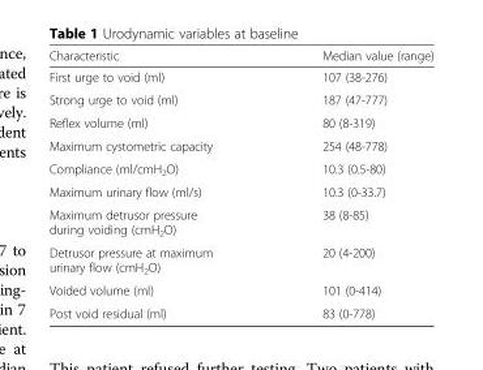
<table><thead><tr><td>Characteristic</td><td>Median value (range)</td></tr></thead><tbody><tr><td>First urge to void (ml)</td><td>107 (38-276)</td></tr><tr><td>Strong urge to void (ml)</td><td>187 (47-777)</td></tr><tr><td>Reflex volume (ml)</td><td>80 (8-319)</td></tr><tr><td>Maximum cystometric capacity</td><td>254 (48-778)</td></tr><tr><td>Compliance (ml/cmH<sub>2</sub>O)</td><td>10.3 (0.5-80)</td></tr><tr><td>Maximum urinary flow (ml/s)</td><td>10.3 (0-33.7)</td></tr><tr><td>Maximum detrusor pressure during voiding (cmH<sub>2</sub>O)</td><td>38 (8-85)</td></tr><tr><td>Detrusor pressure at maximum urinary flow (cmH<sub>2</sub>O)</td><td>20 (4-200)</td></tr><tr><td>Voided volume (ml)</td><td>101 (0-414)</td></tr><tr><td>Post void residual (ml)</td><td>83 (0-778)</td></tr></tbody></table>